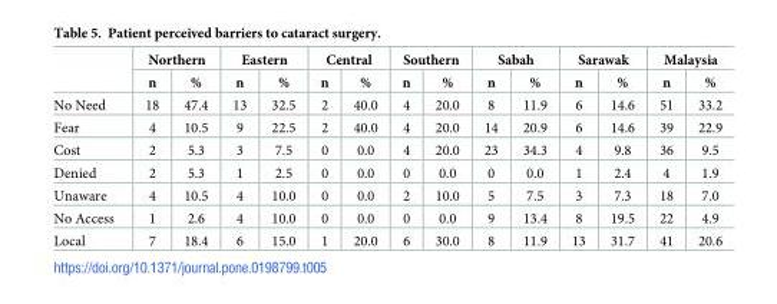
<table><thead><tr><td rowspan="2"></td><td colspan="2">Northern</td><td colspan="2">Eastern</td><td colspan="2">Central</td><td colspan="2">Southern</td><td colspan="2">Sabah</td><td colspan="2">Sarawak</td><td colspan="2">Malaysia</td></tr><tr><td>n</td><td>%</td><td>n</td><td>%</td><td>n</td><td>%</td><td>n</td><td>%</td><td>n</td><td>%</td><td>n</td><td>%</td><td>n</td><td>%</td></tr></thead><tbody><tr><td>No Need</td><td>18</td><td>47.4</td><td>13</td><td>32.5</td><td>2</td><td>40.0</td><td>4</td><td>20.0</td><td>8</td><td>11.9</td><td>6</td><td>14.6</td><td>51</td><td>33.2</td></tr><tr><td>Fear</td><td>4</td><td>10.5</td><td>9</td><td>22.5</td><td>2</td><td>40.0</td><td>4</td><td>20.0</td><td>14</td><td>20.9</td><td>6</td><td>14.6</td><td>39</td><td>22.9</td></tr><tr><td>Cost</td><td>2</td><td>5.3</td><td>3</td><td>7.5</td><td>0</td><td>0.0</td><td>4</td><td>20.0</td><td>23</td><td>34.3</td><td>4</td><td>9.8</td><td>36</td><td>9.5</td></tr><tr><td>Denied</td><td>2</td><td>5.3</td><td>1</td><td>2.5</td><td>0</td><td>0.0</td><td>0</td><td>0.0</td><td>0</td><td>0.0</td><td>1</td><td>2.4</td><td>4</td><td>1.9</td></tr><tr><td>Unaware</td><td>4</td><td>10.5</td><td>4</td><td>10.0</td><td>0</td><td>0.0</td><td>2</td><td>10.0</td><td>5</td><td>7.5</td><td>3</td><td>7.3</td><td>18</td><td>7.0</td></tr><tr><td>No Access</td><td>1</td><td>2.6</td><td>4</td><td>10.0</td><td>0</td><td>0.0</td><td>0</td><td>0.0</td><td>9</td><td>13.4</td><td>8</td><td>19.5</td><td>22</td><td>4.9</td></tr><tr><td>Local</td><td>7</td><td>18.4</td><td>6</td><td>15.0</td><td>1</td><td>20.0</td><td>6</td><td>30.0</td><td>8</td><td>11.9</td><td>13</td><td>31.7</td><td>41</td><td>20.6</td></tr></tbody></table>